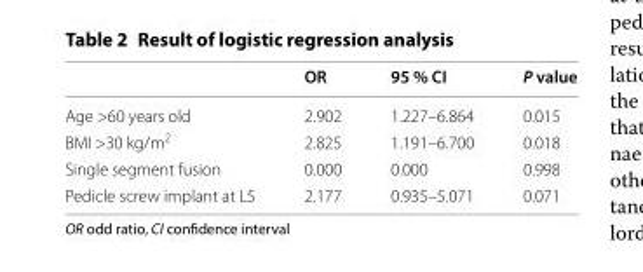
<table><thead><tr><td></td><td>OR</td><td>95 % CI</td><td>P value</td></tr></thead><tbody><tr><td>Age &gt;60 years old</td><td>2.902</td><td>1.227–6.864</td><td>0.015</td></tr><tr><td>BMI &gt;30 kg/m<sup>2</sup></td><td>2.825</td><td>1.191–6.700</td><td>0.018</td></tr><tr><td>Single segment fusion</td><td>0.000</td><td>0.000</td><td>0.998</td></tr><tr><td>Pedicle screw implant at L5</td><td>2.177</td><td>0.935–5.071</td><td>0.071</td></tr></tbody></table>